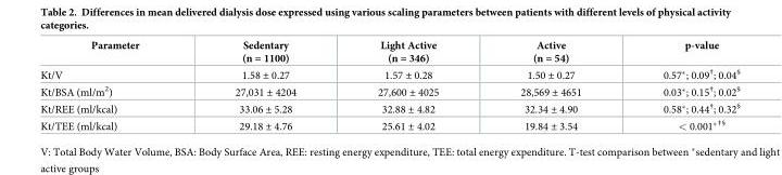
<table><thead><tr><td>Parameter</td><td>Sedentary (n = 1100)</td><td>Light Active (n = 346)</td><td>Active (n = 54)</td><td>p-value</td></tr></thead><tbody><tr><td>Kt/V</td><td>1.58 ± 0.27</td><td>1.57 ± 0.28</td><td>1.50 ± 0.27</td><td>0.57*; 0.09<sup>†</sup>; 0.04<sup>§</sup></td></tr><tr><td>Kt/BSA (ml/m<sup>2</sup>)</td><td>27,031 ± 4204</td><td>27,600 ± 4025</td><td>28,569 ± 4651</td><td>0.03*; 0.15<sup>†</sup>; 0.02<sup>§</sup></td></tr><tr><td>Kt/REE (ml/kcal)</td><td>33.06 ± 5.28</td><td>32.88 ± 4.82</td><td>32.34 ± 4.90</td><td>0.58*; 0.44<sup>†</sup>; 0.32<sup>§</sup></td></tr><tr><td>Kt/TEE (ml/kcal)</td><td>29.18 ± 4.76</td><td>25.61 ± 4.02</td><td>19.84 ± 3.54</td><td>&lt; 0.001*<sup>†§</sup></td></tr></tbody></table>